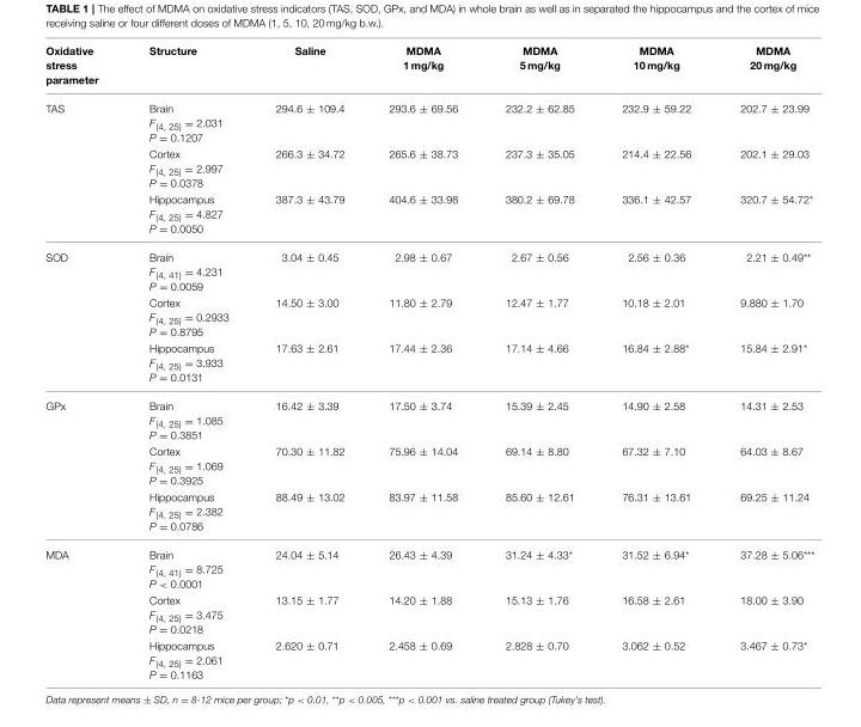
<table><thead><tr><td>Oxidative stress parameter</td><td>Structure</td><td>Saline</td><td>MDMA 1 mg/kg</td><td>MDMA 5 mg/kg</td><td>MDMA 10 mg/kg</td><td>MDMA 20 mg/kg</td></tr></thead><tbody><tr><td rowspan="3">TAS</td><td>Brain F<sub>(4, 25)</sub> = 2.031 P = 0.1207</td><td>294.6 ± 109.4</td><td>293.6 ± 69.56</td><td>232.2 ± 62.85</td><td>232.9 ± 59.22</td><td>202.7 ± 23.99</td></tr><tr><td>Cortex F<sub>(4, 25)</sub> = 2.997 P = 0.0378</td><td>266.3 ± 34.72</td><td>265.6 ± 38.73</td><td>237.3 ± 35.05</td><td>214.4 ± 22.56</td><td>202.1 ± 29.03</td></tr><tr><td>Hippocampus F<sub>(4, 25)</sub> = 4.827 P = 0.0050</td><td>387.3 ± 43.79</td><td>404.6 ± 33.98</td><td>380.2 ± 69.78</td><td>336.1 ± 42.57</td><td>320.7 ± 54.72*</td></tr><tr><td rowspan="3">SOD</td><td>Brain F<sub>(4, 41)</sub> = 4.231 P = 0.0059</td><td>3.04 ± 0.45</td><td>2.98 ± 0.67</td><td>2.67 ± 0.56</td><td>2.56 ± 0.36</td><td>2.21 ± 0.49**</td></tr><tr><td>Cortex F<sub>(4, 25)</sub> = 0.2933 P = 0.8795</td><td>14.50 ± 3.00</td><td>11.80 ± 2.79</td><td>12.47 ± 1.77</td><td>10.18 ± 2.01</td><td>9.880 ± 1.70</td></tr><tr><td>Hippocampus F<sub>(4, 25)</sub> = 3.933 P = 0.0131</td><td>17.63 ± 2.61</td><td>17.44 ± 2.36</td><td>17.14 ± 4.66</td><td>16.84 ± 2.88*</td><td>15.84 ± 2.91*</td></tr><tr><td rowspan="3">GPx</td><td>Brain F<sub>(4, 25)</sub> = 1.085 P = 0.3851</td><td>16.42 ± 3.39</td><td>17.50 ± 3.74</td><td>15.39 ± 2.45</td><td>14.90 ± 2.58</td><td>14.31 ± 2.53</td></tr><tr><td>Cortex F<sub>(4, 25)</sub> = 1.069 P = 0.3925</td><td>70.30 ± 11.82</td><td>75.96 ± 14.04</td><td>69.14 ± 8.80</td><td>67.32 ± 7.10</td><td>64.03 ± 8.67</td></tr><tr><td>Hippocampus F<sub>(4, 25)</sub> = 2.382 P = 0.0786</td><td>88.49 ± 13.02</td><td>83.97 ± 11.58</td><td>85.60 ± 12.61</td><td>76.31 ± 13.61</td><td>69.25 ± 11.24</td></tr><tr><td rowspan="3">MDA</td><td>Brain F<sub>(4, 41)</sub> = 8.725 P &lt; 0.0001</td><td>24.04 ± 5.14</td><td>26.43 ± 4.39</td><td>31.24 ± 4.33*</td><td>31.52 ± 6.94*</td><td>37.28 ± 5.06***</td></tr><tr><td>Cortex F<sub>(4, 25)</sub> = 3.475 P = 0.0218</td><td>13.15 ± 1.77</td><td>14.20 ± 1.88</td><td>15.13 ± 1.76</td><td>16.58 ± 2.61</td><td>18.00 ± 3.90</td></tr><tr><td>Hippocampus F<sub>(4, 25)</sub> = 2.061 P = 0.1163</td><td>2.620 ± 0.71</td><td>2.458 ± 0.69</td><td>2.828 ± 0.70</td><td>3.062 ± 0.52</td><td>3.467 ± 0.73*</td></tr></tbody></table>